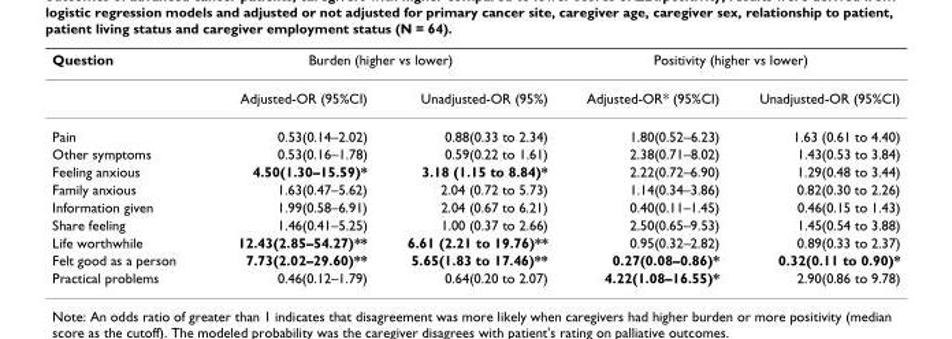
<table><thead><tr><td rowspan="2">Question</td><td colspan="2">Burden (higher vs lower)</td><td colspan="2">Positivity (higher vs lower)</td></tr><tr><td>Adjusted-OR (95%CI)</td><td>Unadjusted-OR (95%)</td><td>Adjusted-OR* (95%CI)</td><td>Unadjusted-OR (95%CI)</td></tr></thead><tbody><tr><td>Pain</td><td>0.53(0.14–2.02)</td><td>0.88(0.33 to 2.34)</td><td>1.80(0.52–6.23)</td><td>1.63 (0.61 to 4.40)</td></tr><tr><td>Other symptoms</td><td>0.53(0.16–1.78)</td><td>0.59(0.22 to 1.61)</td><td>2.38(0.71–8.02)</td><td>1.43(0.53 to 3.84)</td></tr><tr><td>Feeling anxious</td><td>4.50(1.30–15.59)*</td><td>3.18 (1.15 to 8.84)*</td><td>2.22(0.72–6.90)</td><td>1.29(0.48 to 3.44)</td></tr><tr><td>Family anxious</td><td>1.63(0.47–5.62)</td><td>2.04 (0.72 to 5.73)</td><td>1.14(0.34–3.86)</td><td>0.82(0.30 to 2.26)</td></tr><tr><td>Information given</td><td>1.99(0.58–6.91)</td><td>2.04 (0.67 to 6.21)</td><td>0.40(0.11–1.45)</td><td>0.46(0.15 to 1.43)</td></tr><tr><td>Share feeling</td><td>1.46(0.41–5.25)</td><td>1.00 (0.37 to 2.66)</td><td>2.50(0.65–9.53)</td><td>1.45(0.54 to 3.88)</td></tr><tr><td>Life worthwhile</td><td>12.43(2.85–54.27)**</td><td>6.61 (2.21 to 19.76)**</td><td>0.95(0.32–2.82)</td><td>0.89(0.33 to 2.37)</td></tr><tr><td>Felt good as a person</td><td>7.73(2.02–29.60)**</td><td>5.65(1.83 to 17.46)**</td><td>0.27(0.08–0.86)*</td><td>0.32(0.11 to 0.90)*</td></tr><tr><td>Practical problems</td><td>0.46(0.12–1.79)</td><td>0.64(0.20 to 2.07)</td><td>4.22(1.08–16.55)*</td><td>2.90(0.86 to 9.78)</td></tr></tbody></table>